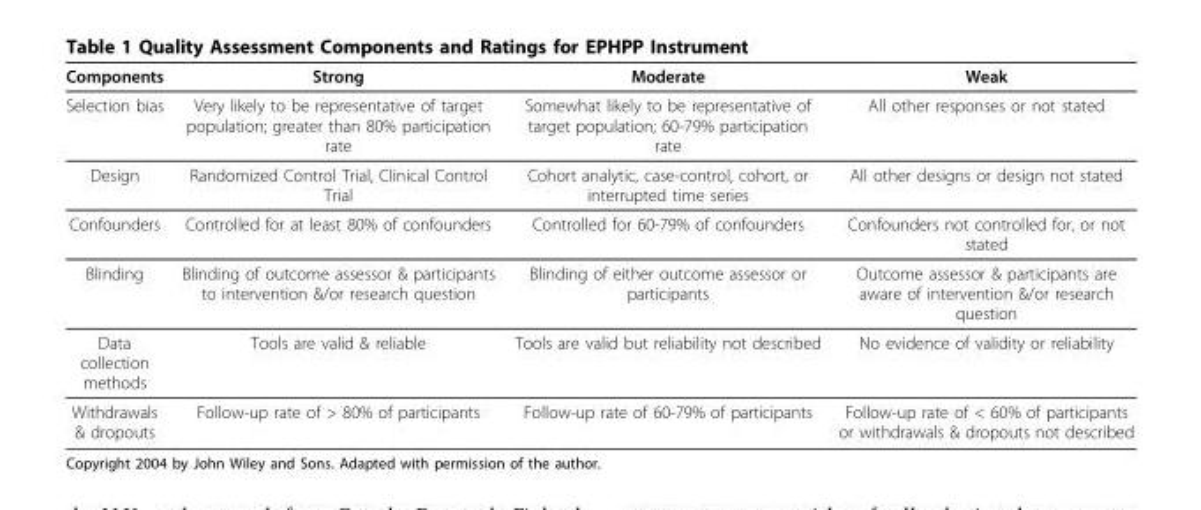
<table><thead><tr><td>Components</td><td>Strong</td><td>Moderate</td><td>Weak</td></tr></thead><tbody><tr><td>Selection bias</td><td>Very likely to be representative of target population; greater than 80% participation rate</td><td>Somewhat likely to be representative of target population; 60-79% participation rate</td><td>All other responses or not stated</td></tr><tr><td>Design</td><td>Randomized Control Trial, Clinical Control Trial</td><td>Cohort analytic, case-control, cohort, or interrupted time series</td><td>All other designs or design not stated</td></tr><tr><td>Confounders</td><td>Controlled for at least 80% of confounders</td><td>Controlled for 60-79% of confounders</td><td>Confounders not controlled for, or not stated</td></tr><tr><td>Blinding</td><td>Blinding of outcome assessor &amp; participants to intervention &amp;/or research question</td><td>Blinding of either outcome assessor or participants</td><td>Outcome assessor &amp; participants are aware of intervention &amp;/or research question</td></tr><tr><td>Data collection methods</td><td>Tools are valid &amp; reliable</td><td>Tools are valid but reliability not described</td><td>No evidence of validity or reliability</td></tr><tr><td>Withdrawals &amp; dropouts</td><td>Follow-up rate of &gt; 80% of participants</td><td>Follow-up rate of 60-79% of participants</td><td>Follow-up rate of &lt; 60% of participants or withdrawals &amp; dropouts not described</td></tr></tbody></table>